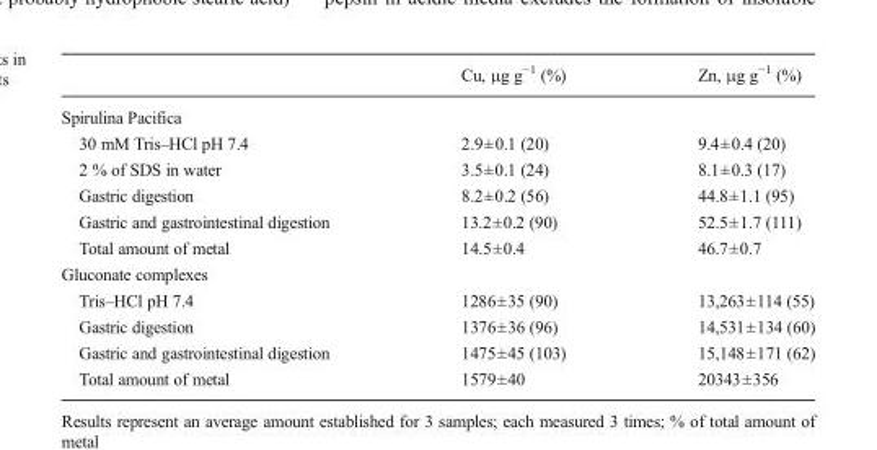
<table><thead><tr><td></td><td>Cu, μg g<sup>−1</sup> (%)</td><td>Zn, μg g<sup>−1</sup> (%)</td></tr></thead><tbody><tr><td colspan="3">Spirulina Pacifica</td></tr><tr><td>30 mM Tris–HCl pH 7.4</td><td>2.9±0.1 (20)</td><td>9.4±0.4 (20)</td></tr><tr><td>2 % of SDS in water</td><td>3.5±0.1 (24)</td><td>8.1±0.3 (17)</td></tr><tr><td>Gastric digestion</td><td>8.2±0.2 (56)</td><td>44.8±1.1 (95)</td></tr><tr><td>Gastric and gastrointestinal digestion</td><td>13.2±0.2 (90)</td><td>52.5±1.7 (111)</td></tr><tr><td>Total amount of metal</td><td>14.5±0.4</td><td>46.7±0.7</td></tr><tr><td colspan="3">Gluconate complexes</td></tr><tr><td>Tris–HCl pH 7.4</td><td>1286±35 (90)</td><td>13,263±114 (55)</td></tr><tr><td>Gastric digestion</td><td>1376±36 (96)</td><td>14,531±134 (60)</td></tr><tr><td>Gastric and gastrointestinal digestion</td><td>1475±45 (103)</td><td>15,148±171 (62)</td></tr><tr><td>Total amount of metal</td><td>1579±40</td><td>20343±356</td></tr></tbody></table>